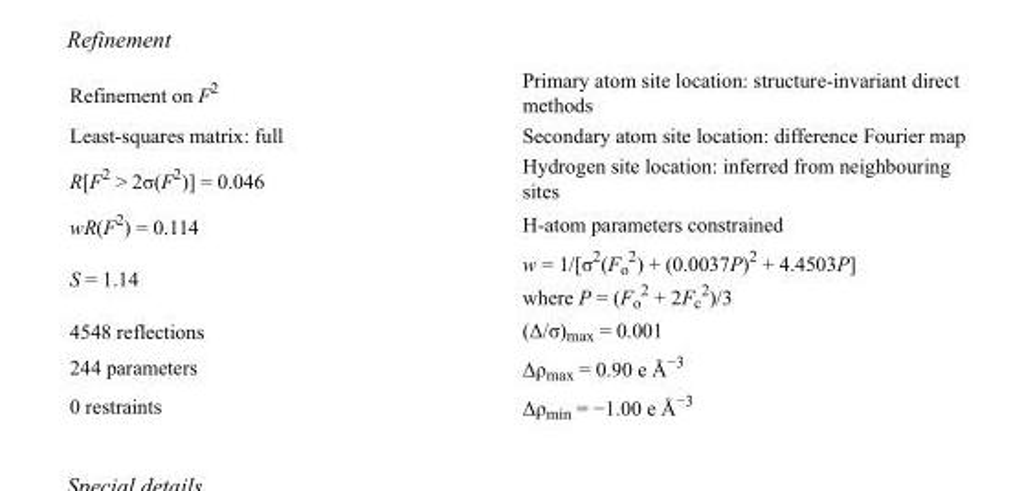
<table><tbody><tr><td>Refinement on F<sup>2</sup></td><td>Primary atom site location: structure-invariant direct methods</td></tr><tr><td>Least-squares matrix: full</td><td>Secondary atom site location: difference Fourier map</td></tr><tr><td>R[F<sup>2</sup> &gt; 2σ(F<sup>2</sup>)] = 0.046</td><td>Hydrogen site location: inferred from neighbouring sites</td></tr><tr><td>wR(F<sup>2</sup>) = 0.114</td><td>H-atom parameters constrained</td></tr><tr><td>S = 1.14</td><td>w = 1/[σ<sup>2</sup>(F<sub>o</sub> <sup>2</sup>) + (0.0037P)<sup>2</sup> + 4.4503P] where P = (F<sub>o</sub> <sup>2</sup> + 2F<sub>c</sub> <sup>2</sup>)/3</td></tr><tr><td>4548 reflections</td><td>(Δ/σ)<sub>max</sub> = 0.001</td></tr><tr><td>244 parameters</td><td>Δρ<sub>max</sub> = 0.90 e Å<sup>−3</sup></td></tr><tr><td>0 restraints</td><td>Δρ<sub>min</sub> = −1.00 e Å<sup>−3</sup></td></tr></tbody></table>